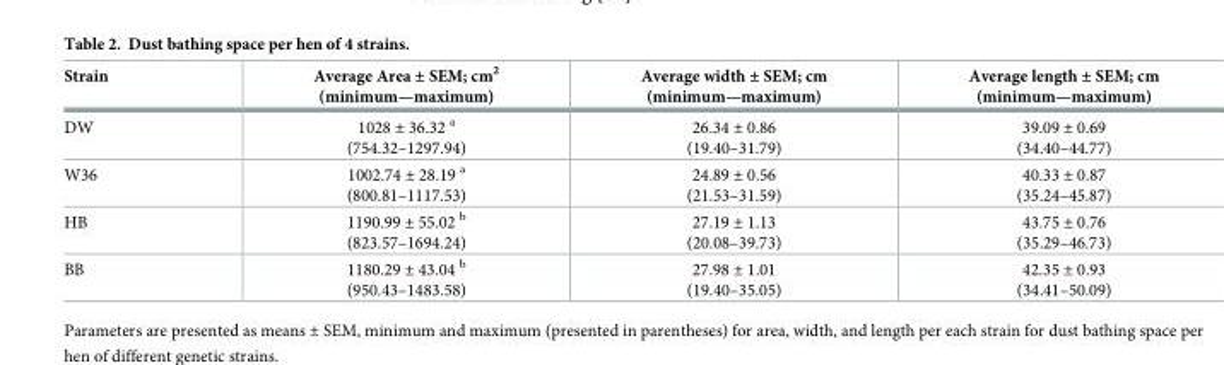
<table><thead><tr><td>Strain</td><td>Average Area ± SEM; cm<sup>2</sup> (minimum—maximum)</td><td>Average width ± SEM; cm (minimum—maximum)</td><td>Average length ± SEM; cm (minimum—maximum)</td></tr></thead><tbody><tr><td>DW</td><td>1028 ± 36.32 <sup>a</sup> (754.32–1297.94)</td><td>26.34 ± 0.86 (19.40–31.79)</td><td>39.09 ± 0.69 (34.40–44.77)</td></tr><tr><td>W36</td><td>1002.74 ± 28.19 <sup>a</sup> (800.81–1117.53)</td><td>24.89 ± 0.56 (21.53–31.59)</td><td>40.33 ± 0.87 (35.24–45.87)</td></tr><tr><td>HB</td><td>1190.99 ± 55.02 <sup>b</sup> (823.57–1694.24)</td><td>27.19 ± 1.13 (20.08–39.73)</td><td>43.75 ± 0.76 (35.29–46.73)</td></tr><tr><td>BB</td><td>1180.29 ± 43.04 <sup>b</sup> (950.43–1483.58)</td><td>27.98 ± 1.01 (19.40–35.05)</td><td>42.35 ± 0.93 (34.41–50.09)</td></tr></tbody></table>